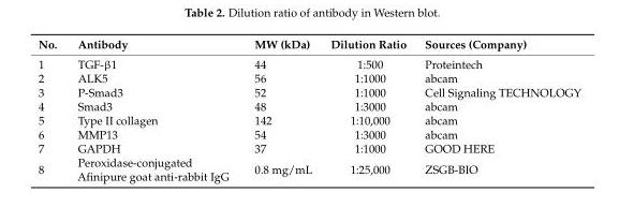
<table><thead><tr><td>No.</td><td>Antibody</td><td>MW (kDa)</td><td>Dilution Ratio</td><td>Sources (Company)</td></tr></thead><tbody><tr><td>1</td><td>TGF-β1</td><td>44</td><td>1:500</td><td>Proteintech</td></tr><tr><td>2</td><td>ALK5</td><td>56</td><td>1:1000</td><td>abcam</td></tr><tr><td>3</td><td>P-Smad3</td><td>52</td><td>1:1000</td><td>Cell Signaling TECHNOLOGY</td></tr><tr><td>4</td><td>Smad3</td><td>48</td><td>1:3000</td><td>abcam</td></tr><tr><td>5</td><td>Type II collagen</td><td>142</td><td>1:10,000</td><td>abcam</td></tr><tr><td>6</td><td>MMP13</td><td>54</td><td>1:3000</td><td>abcam</td></tr><tr><td>7</td><td>GAPDH</td><td>37</td><td>1:1000</td><td>GOOD HERE</td></tr><tr><td>8</td><td>Peroxidase-conjugated Afinipure goat anti-rabbit IgG</td><td>0.8 mg/mL</td><td>1:25,000</td><td>ZSGB-BIO</td></tr></tbody></table>